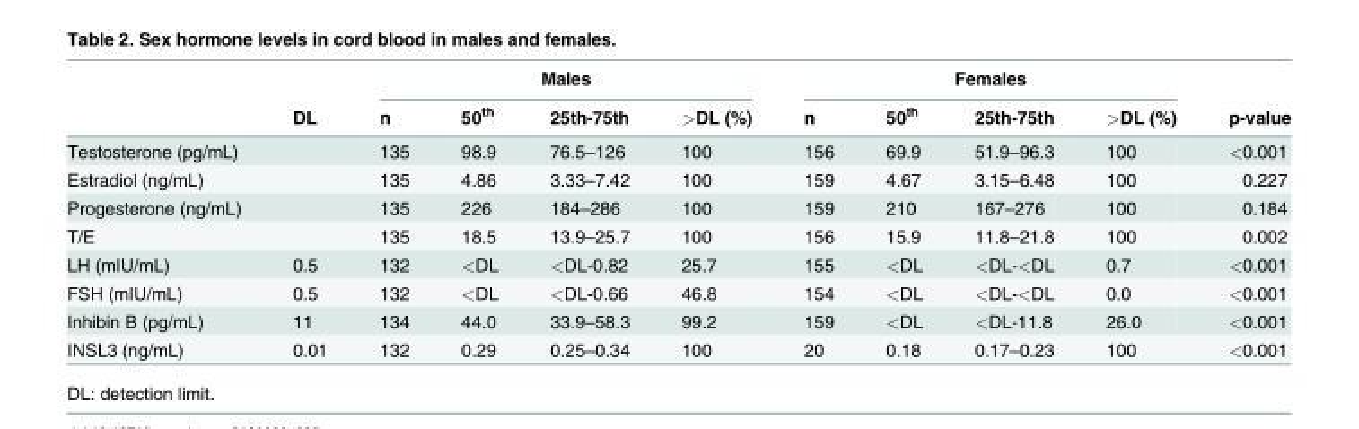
<table><thead><tr><td rowspan="2"></td><td rowspan="2">DL</td><td colspan="4">Males</td><td colspan="4">Females</td><td rowspan="2">p-value</td></tr><tr><td>n</td><td>50<sup>th</sup></td><td>25th-75th</td><td>&gt;DL (%)</td><td>n</td><td>50<sup>th</sup></td><td>25th-75th</td><td>&gt;DL (%)</td></tr></thead><tbody><tr><td>Testosterone (pg/mL)</td><td></td><td>135</td><td>98.9</td><td>76.5–126</td><td>100</td><td>156</td><td>69.9</td><td>51.9–96.3</td><td>100</td><td>&lt;0.001</td></tr><tr><td>Estradiol (ng/mL)</td><td></td><td>135</td><td>4.86</td><td>3.33–7.42</td><td>100</td><td>159</td><td>4.67</td><td>3.15–6.48</td><td>100</td><td>0.227</td></tr><tr><td>Progesterone (ng/mL)</td><td></td><td>135</td><td>226</td><td>184–286</td><td>100</td><td>159</td><td>210</td><td>167–276</td><td>100</td><td>0.184</td></tr><tr><td>T/E</td><td></td><td>135</td><td>18.5</td><td>13.9–25.7</td><td>100</td><td>156</td><td>15.9</td><td>11.8–21.8</td><td>100</td><td>0.002</td></tr><tr><td>LH (mIU/mL)</td><td>0.5</td><td>132</td><td>&lt;DL</td><td>&lt;DL-0.82</td><td>25.7</td><td>155</td><td>&lt;DL</td><td>&lt;DL-&lt;DL</td><td>0.7</td><td>&lt;0.001</td></tr><tr><td>FSH (mIU/mL)</td><td>0.5</td><td>132</td><td>&lt;DL</td><td>&lt;DL-0.66</td><td>46.8</td><td>154</td><td>&lt;DL</td><td>&lt;DL-&lt;DL</td><td>0.0</td><td>&lt;0.001</td></tr><tr><td>Inhibin B (pg/mL)</td><td>11</td><td>134</td><td>44.0</td><td>33.9–58.3</td><td>99.2</td><td>159</td><td>&lt;DL</td><td>&lt;DL-11.8</td><td>26.0</td><td>&lt;0.001</td></tr><tr><td>INSL3 (ng/mL)</td><td>0.01</td><td>132</td><td>0.29</td><td>0.25–0.34</td><td>100</td><td>20</td><td>0.18</td><td>0.17–0.23</td><td>100</td><td>&lt;0.001</td></tr></tbody></table>